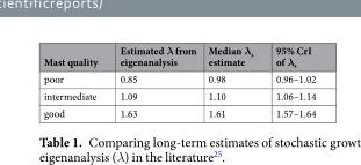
<table><thead><tr><td>Mast quality</td><td>Estimated λ from eigenanalysis</td><td>Median λ<sub>s</sub> estimate</td><td>95% CrI of λ<sub>s</sub></td></tr></thead><tbody><tr><td>poor</td><td>0.85</td><td>0.98</td><td>0.96–1.02</td></tr><tr><td>intermediate</td><td>1.09</td><td>1.10</td><td>1.06–1.14</td></tr><tr><td>good</td><td>1.63</td><td>1.61</td><td>1.57–1.64</td></tr></tbody></table>